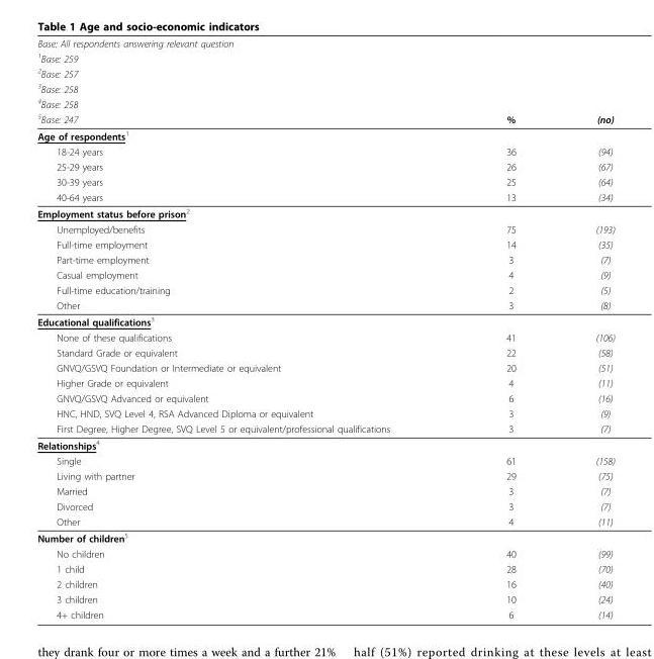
<table><thead><tr><td rowspan="6">Base: All respondents answering relevant question 1Base: 259 2Base: 257 3Base: 258 4Base: 258 5Base: 247</td><td rowspan="6">%</td><td rowspan="6">(no)</td></tr><tr></tr><tr></tr><tr></tr><tr></tr><tr></tr></thead><tbody><tr><td colspan="3">Age of respondents1</td></tr><tr><td>18-24 years</td><td>36</td><td>(94)</td></tr><tr><td>25-29 years</td><td>26</td><td>(67)</td></tr><tr><td>30-39 years</td><td>25</td><td>(64)</td></tr><tr><td>40-64 years</td><td>13</td><td>(34)</td></tr><tr><td colspan="3">Employment status before prison<sup>2</sup></td></tr><tr><td>Unemployed/benefits</td><td>75</td><td>(193)</td></tr><tr><td>Full-time employment</td><td>14</td><td>(35)</td></tr><tr><td>Part-time employment</td><td>3</td><td>(7)</td></tr><tr><td>Casual employment</td><td>4</td><td>(9)</td></tr><tr><td>Full-time education/training</td><td>2</td><td>(5)</td></tr><tr><td>Other</td><td>3</td><td>(8)</td></tr><tr><td colspan="3">Educational qualifications<sup>3</sup></td></tr><tr><td>None of these qualifications</td><td>41</td><td>(106)</td></tr><tr><td>Standard Grade or equivalent</td><td>22</td><td>(58)</td></tr><tr><td>GNVQ/GSVQ Foundation or Intermediate or equivalent</td><td>20</td><td>(51)</td></tr><tr><td>Higher Grade or equivalent</td><td>4</td><td>(11)</td></tr><tr><td>GNVQ/GSVQ Advanced or equivalent</td><td>6</td><td>(16)</td></tr><tr><td>HNC, HND, SVQ Level 4, RSA Advanced Diploma or equivalent</td><td>3</td><td>(9)</td></tr><tr><td>First Degree, Higher Degree, SVQ Level 5 or equivalent/professional qualifications</td><td>3</td><td>(7)</td></tr><tr><td colspan="3">Relationships<sup>4</sup></td></tr><tr><td>Single</td><td>61</td><td>(158)</td></tr><tr><td>Living with partner</td><td>29</td><td>(75)</td></tr><tr><td>Married</td><td>3</td><td>(7)</td></tr><tr><td>Divorced</td><td>3</td><td>(7)</td></tr><tr><td>Other</td><td>4</td><td>(11)</td></tr><tr><td colspan="3">Number of children<sup>5</sup></td></tr><tr><td>No children</td><td>40</td><td>(99)</td></tr><tr><td>1 child</td><td>28</td><td>(70)</td></tr><tr><td>2 children</td><td>16</td><td>(40)</td></tr><tr><td>3 children</td><td>10</td><td>(24)</td></tr><tr><td>4+ children</td><td>6</td><td>(14)</td></tr></tbody></table>